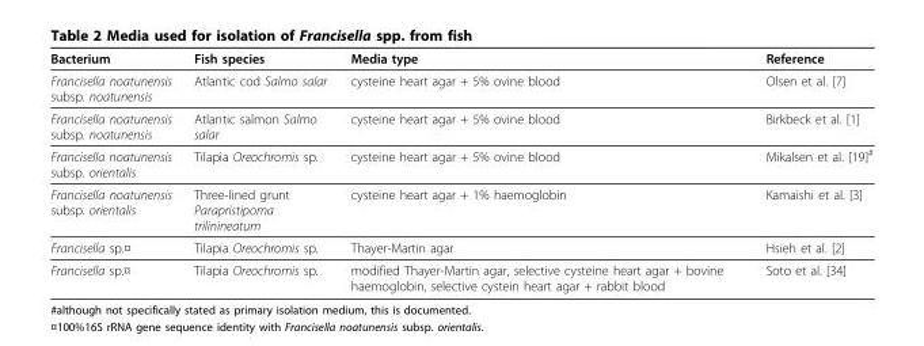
<table><thead><tr><td>Bacterium</td><td>Fish species</td><td>Media type</td><td>Reference</td></tr></thead><tbody><tr><td>Francisella noatunensis subsp. noatunensis</td><td>Atlantic cod Salmo salar</td><td>cysteine heart agar + 5% ovine blood</td><td>Olsen et al. [7]</td></tr><tr><td>Francisella noatunensis subsp. noatunensis</td><td>Atlantic salmon Salmo salar</td><td>cysteine heart agar + 5% ovine blood</td><td>Birkbeck et al. [1]</td></tr><tr><td>Francisella noatunensis subsp. orientalis</td><td>Tilapia Oreochromis sp.</td><td>cysteine heart agar + 5% ovine blood</td><td>Mikalsen et al. [19]<sup>#</sup></td></tr><tr><td>Francisella noatunensis subsp. orientalis</td><td>Three-lined grunt Parapristipoma trilinineatum</td><td>cysteine heart agar + 1% haemoglobin</td><td>Kamaishi et al. [3]</td></tr><tr><td>Francisella sp.¤</td><td>Tilapia Oreochromis sp.</td><td>Thayer-Martin agar</td><td>Hsieh et al. [2]</td></tr><tr><td>Francisella sp.¤</td><td>Tilapia Oreochromis sp.</td><td>modified Thayer-Martin agar, selective cysteine heart agar + bovine haemoglobin, selective cystein heart agar + rabbit blood</td><td>Soto et al. [34]</td></tr></tbody></table>